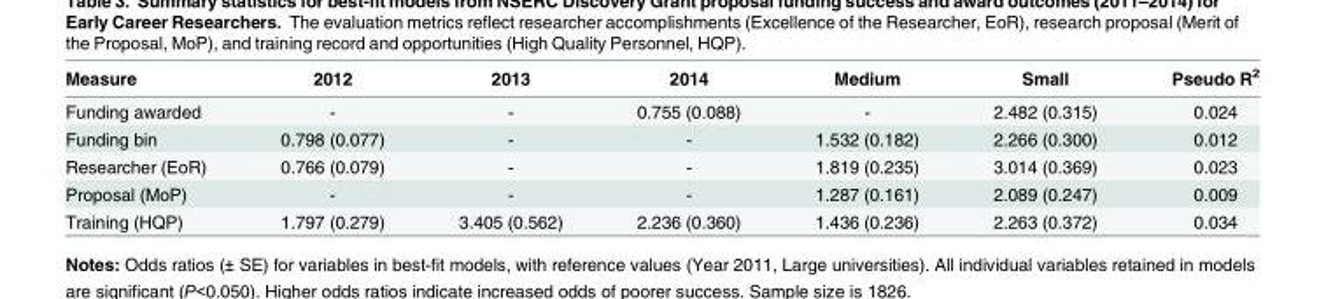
<table><thead><tr><td>Measure</td><td>2012</td><td>2013</td><td>2014</td><td>Medium</td><td>Small</td><td>Pseudo R<sup>2</sup></td></tr></thead><tbody><tr><td>Funding awarded</td><td>-</td><td>-</td><td>0.755 (0.088)</td><td>-</td><td>2.482 (0.315)</td><td>0.024</td></tr><tr><td>Funding bin</td><td>0.798 (0.077)</td><td>-</td><td>-</td><td>1.532 (0.182)</td><td>2.266 (0.300)</td><td>0.012</td></tr><tr><td>Researcher (EoR)</td><td>0.766 (0.079)</td><td>-</td><td>-</td><td>1.819 (0.235)</td><td>3.014 (0.369)</td><td>0.023</td></tr><tr><td>Proposal (MoP)</td><td>-</td><td>-</td><td>-</td><td>1.287 (0.161)</td><td>2.089 (0.247)</td><td>0.009</td></tr><tr><td>Training (HQP)</td><td>1.797 (0.279)</td><td>3.405 (0.562)</td><td>2.236 (0.360)</td><td>1.436 (0.236)</td><td>2.263 (0.372)</td><td>0.034</td></tr></tbody></table>